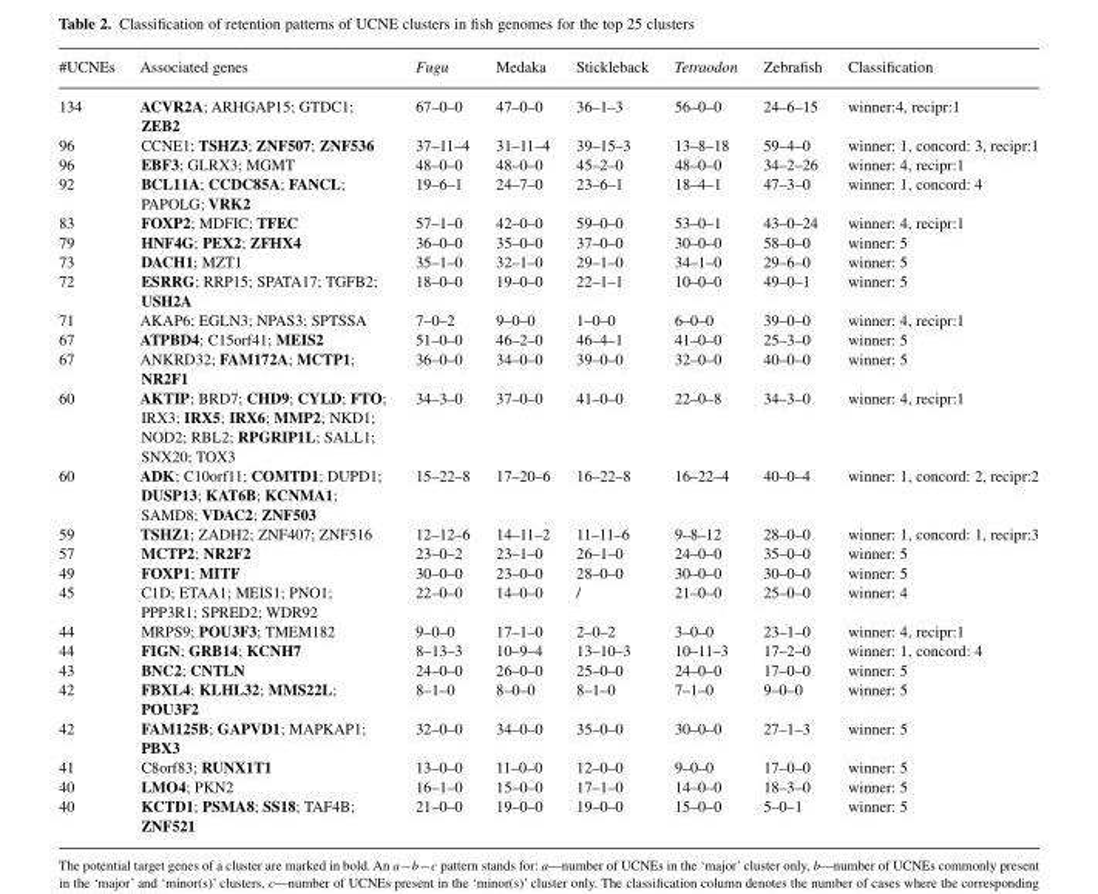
<table><thead><tr><td>#UCNEs</td><td>Associated genes</td><td>Fugu</td><td>Medaka</td><td>Stickleback</td><td>Tetraodon</td><td>Zebrafish</td><td>Classification</td></tr></thead><tbody><tr><td>134</td><td>ACVR2A; ARHGAP15; GTDC1; ZEB2</td><td>67–0–0</td><td>47–0–0</td><td>36–1–3</td><td>56–0–0</td><td>24–6–15</td><td>winner:4, recipr:1</td></tr><tr><td>96</td><td>CCNE1; TSHZ3; ZNF507; ZNF536</td><td>37–11–4</td><td>31–11–4</td><td>39–15–3</td><td>13–8–18</td><td>59–4–0</td><td>winner: 1, concord: 3, recipr:1</td></tr><tr><td>96</td><td>EBF3; GLRX3; MGMT</td><td>48–0–0</td><td>48–0–0</td><td>45–2–0</td><td>48–0–0</td><td>34–2–26</td><td>winner: 4, recipr:1</td></tr><tr><td>92</td><td>BCL11A; CCDC85A; FANCL; PAPOLG; VRK2</td><td>19–6–1</td><td>24–7–0</td><td>23–6–1</td><td>18–4–1</td><td>47–3–0</td><td>winner: 1, concord: 4</td></tr><tr><td>83</td><td>FOXP2; MDFIC; TFEC</td><td>57–1–0</td><td>42–0–0</td><td>59–0–0</td><td>53–0–1</td><td>43–0–24</td><td>winner: 4, recipr:1</td></tr><tr><td>79</td><td>HNF4G; PEX2; ZFHX4</td><td>36–0–0</td><td>35–0–0</td><td>37–0–0</td><td>30–0–0</td><td>58–0–0</td><td>winner: 5</td></tr><tr><td>73</td><td>DACH1; MZT1</td><td>35–1–0</td><td>32–1–0</td><td>29–1–0</td><td>34–1–0</td><td>29–6–0</td><td>winner: 5</td></tr><tr><td>72</td><td>ESRRG; RRP15; SPATA17; TGFB2; USH2A</td><td>18–0–0</td><td>19–0–0</td><td>22–1–1</td><td>10–0–0</td><td>49–0–1</td><td>winner: 5</td></tr><tr><td>71</td><td>AKAP6; EGLN3; NPAS3; SPTSSA</td><td>7–0–2</td><td>9–0–0</td><td>1–0–0</td><td>6–0–0</td><td>39–0–0</td><td>winner: 4, recipr:1</td></tr><tr><td>67</td><td>ATPBD4; C15orf41; MEIS2</td><td>51–0–0</td><td>46–2–0</td><td>46–4–1</td><td>41–0–0</td><td>25–3–0</td><td>winner: 5</td></tr><tr><td>67</td><td>ANKRD32; FAM172A; MCTP1; NR2F1</td><td>36–0–0</td><td>34–0–0</td><td>39–0–0</td><td>32–0–0</td><td>40–0–0</td><td>winner: 5</td></tr><tr><td>60</td><td>AKTIP; BRD7; CHD9; CYLD; FTO; IRX3; IRX5; IRX6; MMP2; NKD1; NOD2; RBL2; RPGRIP1L; SALL1; SNX20; TOX3</td><td>34–3–0</td><td>37–0–0</td><td>41–0–0</td><td>22–0–8</td><td>34–3–0</td><td>winner: 4, recipr:1</td></tr><tr><td>60</td><td>ADK; C10orf11; COMTD1; DUPD1; DUSP13; KAT6B; KCNMA1; SAMD8; VDAC2; ZNF503</td><td>15–22–8</td><td>17–20–6</td><td>16–22–8</td><td>16–22–4</td><td>40–0–4</td><td>winner: 1, concord: 2, recipr:2</td></tr><tr><td>59</td><td>TSHZ1; ZADH2; ZNF407; ZNF516</td><td>12–12–6</td><td>14–11–2</td><td>11–11–6</td><td>9–8–12</td><td>28–0–0</td><td>winner: 1, concord: 1, recipr:3</td></tr><tr><td>57</td><td>MCTP2; NR2F2</td><td>23–0–2</td><td>23–1–0</td><td>26–1–0</td><td>24–0–0</td><td>35–0–0</td><td>winner: 5</td></tr><tr><td>49</td><td>FOXP1; MITF</td><td>30–0–0</td><td>23–0–0</td><td>28–0–0</td><td>30–0–0</td><td>30–0–0</td><td>winner: 5</td></tr><tr><td>45</td><td>C1D; ETAA1; MEIS1; PNO1; PPP3R1; SPRED2; WDR92</td><td>22–0–0</td><td>14–0–0</td><td>/</td><td>21–0–0</td><td>25–0–0</td><td>winner: 4</td></tr><tr><td>44</td><td>MRPS9; POU3F3; TMEM182</td><td>9–0–0</td><td>17–1–0</td><td>2–0–2</td><td>3–0–0</td><td>23–1–0</td><td>winner: 4, recipr:1</td></tr><tr><td>44</td><td>FIGN; GRB14; KCNH7</td><td>8–13–3</td><td>10–9–4</td><td>13–10–3</td><td>10–11–3</td><td>17–2–0</td><td>winner: 1, concord: 4</td></tr><tr><td>43</td><td>BNC2; CNTLN</td><td>24–0–0</td><td>26–0–0</td><td>25–0–0</td><td>24–0–0</td><td>17–0–0</td><td>winner: 5</td></tr><tr><td>42</td><td>FBXL4; KLHL32; MMS22L; POU3F2</td><td>8–1–0</td><td>8–0–0</td><td>8–1–0</td><td>7–1–0</td><td>9–0–0</td><td>winner: 5</td></tr><tr><td>42</td><td>FAM125B; GAPVD1; MAPKAP1; PBX3</td><td>32–0–0</td><td>34–0–0</td><td>35–0–0</td><td>30–0–0</td><td>27–1–3</td><td>winner: 5</td></tr><tr><td>41</td><td>C8orf83; RUNX1T1</td><td>13–0–0</td><td>11–0–0</td><td>12–0–0</td><td>9–0–0</td><td>17–0–0</td><td>winner: 5</td></tr><tr><td>40</td><td>LMO4; PKN2</td><td>16–1–0</td><td>15–0–0</td><td>17–1–0</td><td>14–0–0</td><td>18–3–0</td><td>winner: 5</td></tr><tr><td>40</td><td>KCTD1; PSMA8; SS18; TAF4B; ZNF521</td><td>21–0–0</td><td>19–0–0</td><td>19–0–0</td><td>15–0–0</td><td>5–0–1</td><td>winner: 5</td></tr></tbody></table>